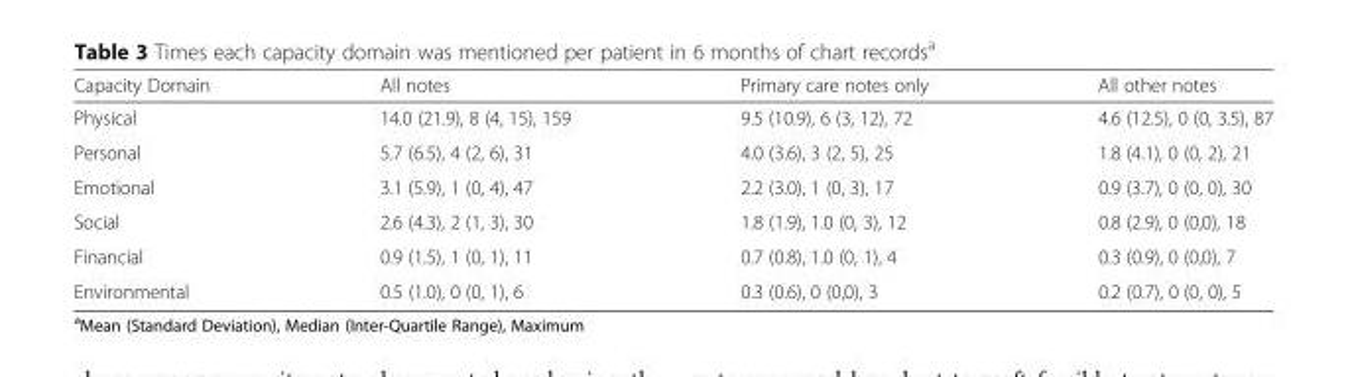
<table><thead><tr><td>Capacity Domain</td><td>All notes</td><td>Primary care notes only</td><td>All other notes</td></tr></thead><tbody><tr><td>Physical</td><td>14.0 (21.9), 8 (4, 15), 159</td><td>9.5 (10.9), 6 (3, 12), 72</td><td>4.6 (12.5), 0 (0, 3.5), 87</td></tr><tr><td>Personal</td><td>5.7 (6.5), 4 (2, 6), 31</td><td>4.0 (3.6), 3 (2, 5), 25</td><td>1.8 (4.1), 0 (0, 2), 21</td></tr><tr><td>Emotional</td><td>3.1 (5.9), 1 (0, 4), 47</td><td>2.2 (3.0), 1 (0, 3), 17</td><td>0.9 (3.7), 0 (0, 0), 30</td></tr><tr><td>Social</td><td>2.6 (4.3), 2 (1, 3), 30</td><td>1.8 (1.9), 1.0 (0, 3), 12</td><td>0.8 (2.9), 0 (0,0), 18</td></tr><tr><td>Financial</td><td>0.9 (1.5), 1 (0, 1), 11</td><td>0.7 (0.8), 1.0 (0, 1), 4</td><td>0.3 (0.9), 0 (0,0), 7</td></tr><tr><td>Environmental</td><td>0.5 (1.0), 0 (0, 1), 6</td><td>0.3 (0.6), 0 (0,0), 3</td><td>0.2 (0.7), 0 (0, 0), 5</td></tr></tbody></table>